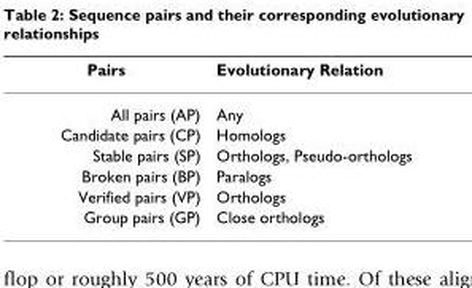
<table><thead><tr><td>Pairs</td><td>Evolutionary Relation</td></tr></thead><tbody><tr><td>All pairs (AP)</td><td>Any</td></tr><tr><td>Candidate pairs (CP)</td><td>Homologs</td></tr><tr><td>Stable pairs (SP)</td><td>Orthologs, Pseudo-orthologs</td></tr><tr><td>Broken pairs (BP)</td><td>Paralogs</td></tr><tr><td>Verified pairs (VP)</td><td>Orthologs</td></tr><tr><td>Group pairs (GP)</td><td>Close orthologs</td></tr></tbody></table>